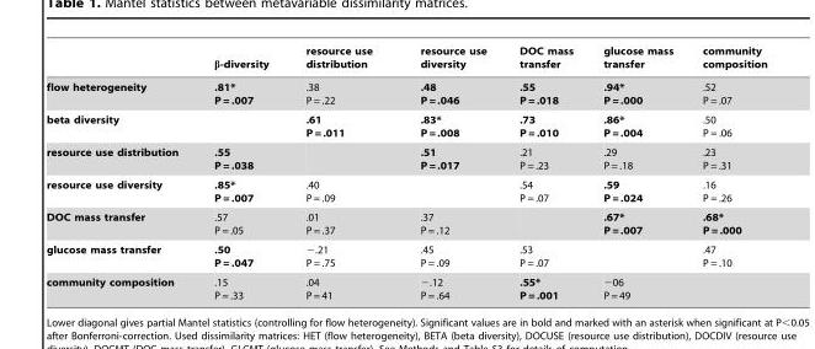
<table><thead><tr><td></td><td>β-diversity</td><td>resource use distribution</td><td>resource use diversity</td><td>DOC mass transfer</td><td>glucose mass transfer</td><td>community composition</td></tr></thead><tbody><tr><td>flow heterogeneity</td><td>.81* P = .007</td><td>.38 P = .22</td><td>.48 P = .046</td><td>.55 P = .018</td><td>.94* P = .000</td><td>.52 P = .07</td></tr><tr><td>beta diversity</td><td></td><td>.61 P = .011</td><td>.83* P = .008</td><td>.73 P = .010</td><td>.86* P = .004</td><td>.50 P = .06</td></tr><tr><td>resource use distribution</td><td>.55 P = .038</td><td></td><td>.51 P = .017</td><td>.21 P = .23</td><td>.29 P = .18</td><td>.23 P = .31</td></tr><tr><td>resource use diversity</td><td>.85* P = .007</td><td>.40 P = .09</td><td></td><td>.54 P = .07</td><td>.59 P = .024</td><td>.16 P = .26</td></tr><tr><td>DOC mass transfer</td><td>.57 P = .05</td><td>.01 P = .37</td><td>.37 P = .12</td><td></td><td>.67* P = .007</td><td>.68* P = .000</td></tr><tr><td>glucose mass transfer</td><td>.50 P = .047</td><td>−.21 P = .75</td><td>.45 P = .09</td><td>.53 P = .07</td><td></td><td>.47 P = .10</td></tr><tr><td>community composition</td><td>.15 P = .33</td><td>.04 P = 41</td><td>−.12 P = .64</td><td>.55* P = .001</td><td>−06 P = 49</td><td></td></tr></tbody></table>